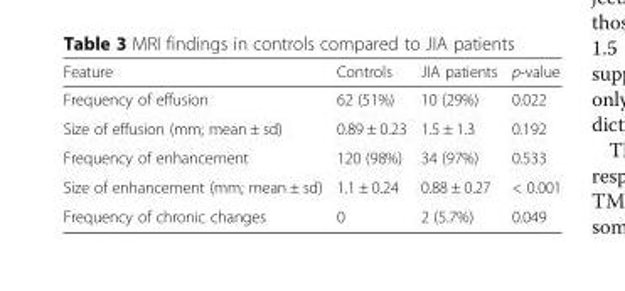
<table><thead><tr><td>Feature</td><td>Controls</td><td>JIA patients</td><td>p-value</td></tr></thead><tbody><tr><td>Frequency of effusion</td><td>62 (51%)</td><td>10 (29%)</td><td>0.022</td></tr><tr><td>Size of effusion (mm; mean ± sd)</td><td>0.89 ± 0.23</td><td>1.5 ± 1.3</td><td>0.192</td></tr><tr><td>Frequency of enhancement</td><td>120 (98%)</td><td>34 (97%)</td><td>0.533</td></tr><tr><td>Size of enhancement (mm; mean ± sd)</td><td>1.1 ± 0.24</td><td>0.88 ± 0.27</td><td>&lt; 0.001</td></tr><tr><td>Frequency of chronic changes</td><td>0</td><td>2 (5.7%)</td><td>0.049</td></tr></tbody></table>